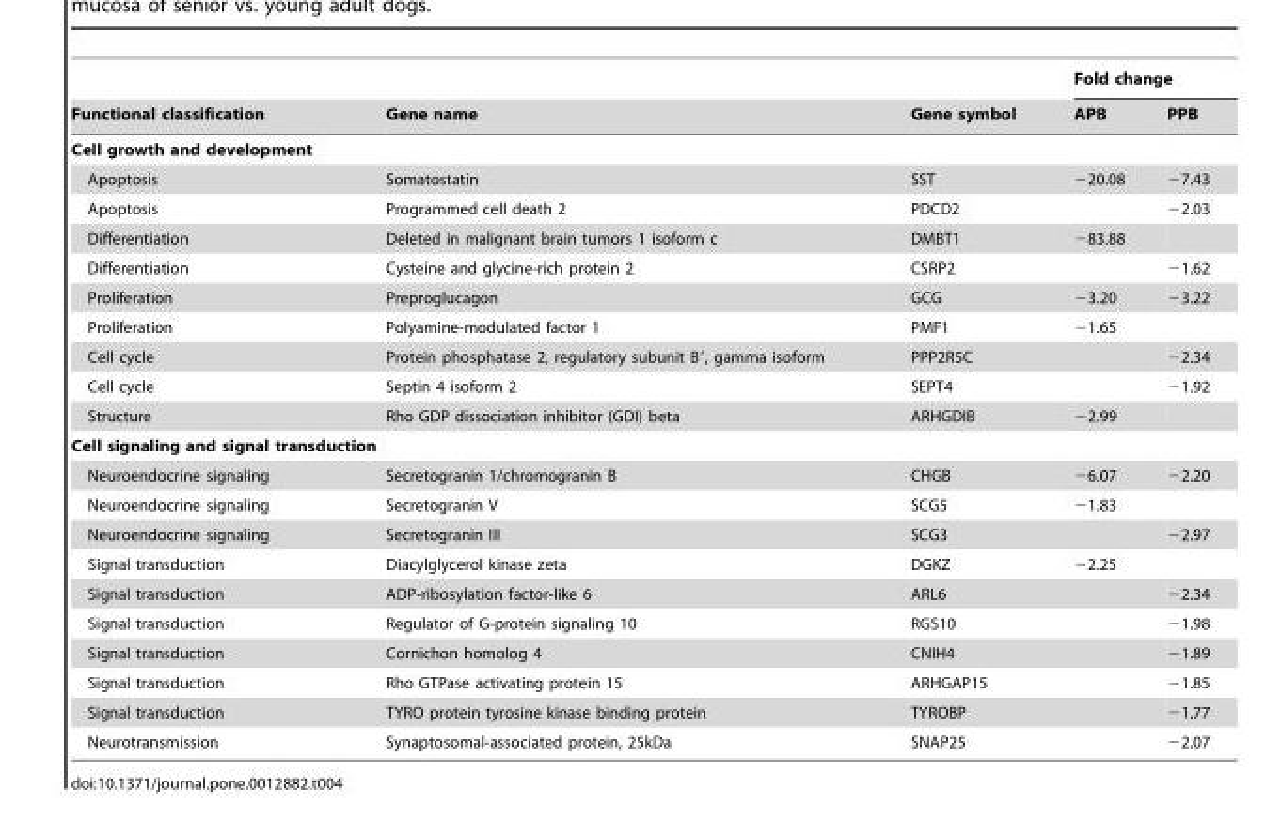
<table><thead><tr><td rowspan="2">Functional classification</td><td rowspan="2">Gene name</td><td rowspan="2">Gene symbol</td><td colspan="2">Fold change</td></tr><tr><td>APB</td><td>PPB</td></tr></thead><tbody><tr><td colspan="5">Cell growth and development</td></tr><tr><td>Apoptosis</td><td>Somatostatin</td><td>SST</td><td>−20.08</td><td>−7.43</td></tr><tr><td>Apoptosis</td><td>Programmed cell death 2</td><td>PDCD2</td><td></td><td>−2.03</td></tr><tr><td>Differentiation</td><td>Deleted in malignant brain tumors 1 isoform c</td><td>DMBT1</td><td>−83.88</td><td></td></tr><tr><td>Differentiation</td><td>Cysteine and glycine-rich protein 2</td><td>CSRP2</td><td></td><td>−1.62</td></tr><tr><td>Proliferation</td><td>Preproglucagon</td><td>GCG</td><td>−3.20</td><td>−3.22</td></tr><tr><td>Proliferation</td><td>Polyamine-modulated factor 1</td><td>PMF1</td><td>−1.65</td><td></td></tr><tr><td>Cell cycle</td><td>Protein phosphatase 2, regulatory subunit B′, gamma isoform</td><td>PPP2R5C</td><td></td><td>−2.34</td></tr><tr><td>Cell cycle</td><td>Septin 4 isoform 2</td><td>SEPT4</td><td></td><td>−1.92</td></tr><tr><td>Structure</td><td>Rho GDP dissociation inhibitor (GDI) beta</td><td>ARHGDIB</td><td>−2.99</td><td></td></tr><tr><td colspan="5">Cell signaling and signal transduction</td></tr><tr><td>Neuroendocrine signaling</td><td>Secretogranin 1/chromogranin B</td><td>CHGB</td><td>−6.07</td><td>−2.20</td></tr><tr><td>Neuroendocrine signaling</td><td>Secretogranin V</td><td>SCG5</td><td>−1.83</td><td></td></tr><tr><td>Neuroendocrine signaling</td><td>Secretogranin III</td><td>SCG3</td><td></td><td>−2.97</td></tr><tr><td>Signal transduction</td><td>Diacylglycerol kinase zeta</td><td>DGKZ</td><td>−2.25</td><td></td></tr><tr><td>Signal transduction</td><td>ADP-ribosylation factor-like 6</td><td>ARL6</td><td></td><td>−2.34</td></tr><tr><td>Signal transduction</td><td>Regulator of G-protein signaling 10</td><td>RGS10</td><td></td><td>−1.98</td></tr><tr><td>Signal transduction</td><td>Cornichon homolog 4</td><td>CNIH4</td><td></td><td>−1.89</td></tr><tr><td>Signal transduction</td><td>Rho GTPase activating protein 15</td><td>ARHGAP15</td><td></td><td>−1.85</td></tr><tr><td>Signal transduction</td><td>TYRO protein tyrosine kinase binding protein</td><td>TYROBP</td><td></td><td>−1.77</td></tr><tr><td>Neurotransmission</td><td>Synaptosomal-associated protein, 25kDa</td><td>SNAP25</td><td></td><td>−2.07</td></tr></tbody></table>